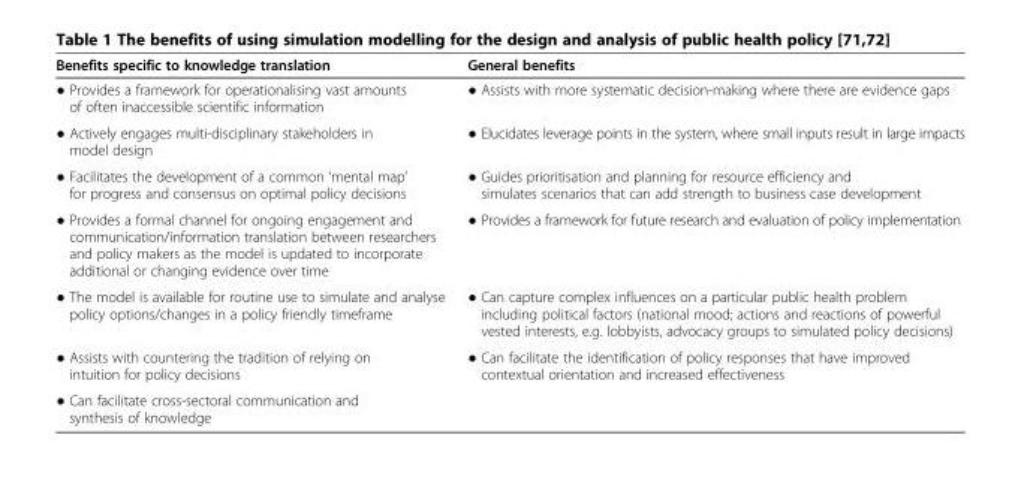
<table><thead><tr><td>Benefits specific to knowledge translation</td><td>General benefits</td></tr></thead><tbody><tr><td>● Provides a framework for operationalising vast amounts of often inaccessible scientific information</td><td>● Assists with more systematic decision-making where there are evidence gaps</td></tr><tr><td>● Actively engages multi-disciplinary stakeholders in model design</td><td>● Elucidates leverage points in the system, where small inputs result in large impacts</td></tr><tr><td>● Facilitates the development of a common ‘mental map’ for progress and consensus on optimal policy decisions</td><td>● Guides prioritisation and planning for resource efficiency and simulates scenarios that can add strength to business case development</td></tr><tr><td>● Provides a formal channel for ongoing engagement and communication/information translation between researchers and policy makers as the model is updated to incorporate additional or changing evidence over time</td><td>● Provides a framework for future research and evaluation of policy implementation</td></tr><tr><td>● The model is available for routine use to simulate and analyse policy options/changes in a policy friendly timeframe</td><td>● Can capture complex influences on a particular public health problem including political factors (national mood; actions and reactions of powerful vested interests, e.g. lobbyists, advocacy groups to simulated policy decisions)</td></tr><tr><td>● Assists with countering the tradition of relying on intuition for policy decisions</td><td>● Can facilitate the identification of policy responses that have improved contextual orientation and increased effectiveness</td></tr><tr><td>● Can facilitate cross-sectoral communication and synthesis of knowledge</td><td></td></tr></tbody></table>